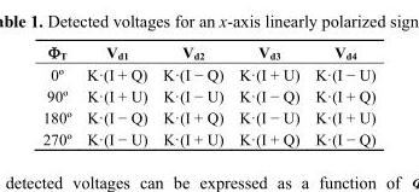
<table><thead><tr><td>Φ<sub>T</sub></td><td>V<sub>d1</sub></td><td>V<sub>d2</sub></td><td>V<sub>d3</sub></td><td>V<sub>d4</sub></td></tr></thead><tbody><tr><td>0º</td><td>K·(I + Q)</td><td>K·(I − Q)</td><td>K·(I + U)</td><td>K·(I − U)</td></tr><tr><td>90º</td><td>K·(I + U)</td><td>K·(I − U)</td><td>K·(I − Q)</td><td>K·(I + Q)</td></tr><tr><td>180º</td><td>K·(I − Q)</td><td>K·(I + Q)</td><td>K·(I − U)</td><td>K·(I + U)</td></tr><tr><td>270º</td><td>K·(I − U)</td><td>K·(I + U)</td><td>K·(I + Q)</td><td>K·(I − Q)</td></tr></tbody></table>